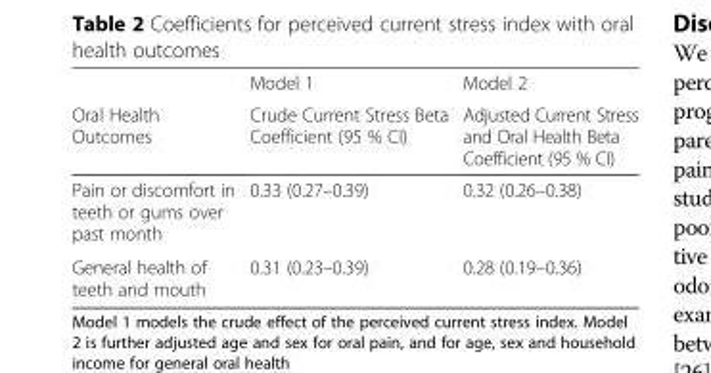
<table><thead><tr><td rowspan="2">Oral Health Outcomes</td><td rowspan="2">Model 1 Crude Current Stress Beta Coefficient (95 % CI)</td><td rowspan="2">Model 2 Adjusted Current Stress and Oral Health Beta Coefficient (95 % CI)</td></tr><tr></tr></thead><tbody><tr><td>Pain or discomfort in teeth or gums over past month</td><td>0.33 (0.27–0.39)</td><td>0.32 (0.26–0.38)</td></tr><tr><td>General health of teeth and mouth</td><td>0.31 (0.23–0.39)</td><td>0.28 (0.19–0.36)</td></tr></tbody></table>